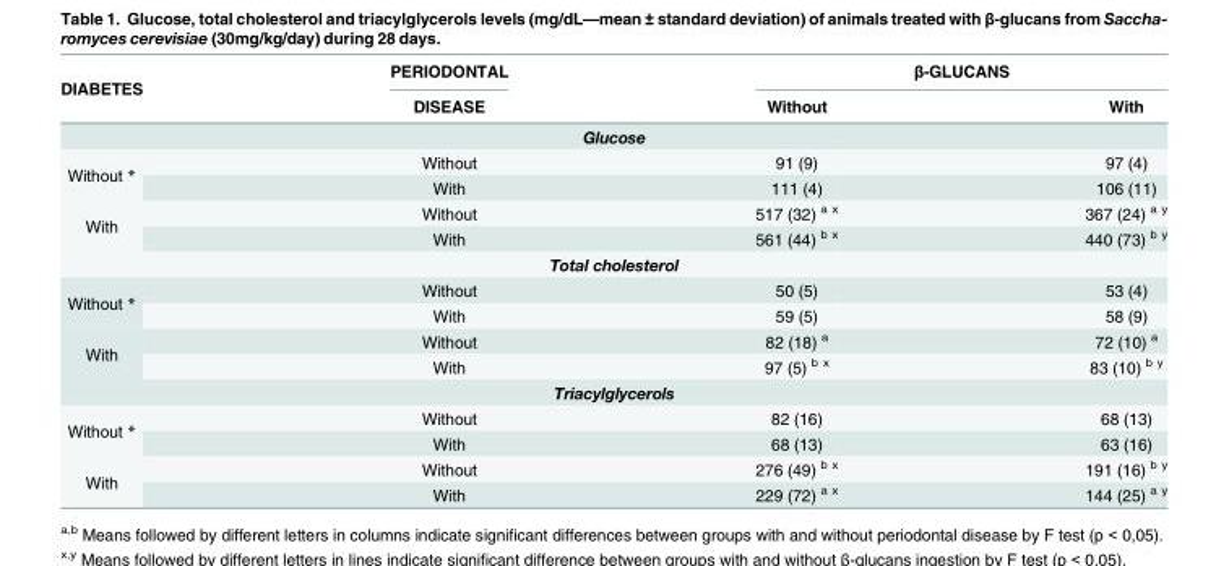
<table><thead><tr><td rowspan="2">DIABETES</td><td rowspan="2">PERIODONTAL DISEASE</td><td colspan="2">β-GLUCANS</td></tr><tr><td>Without</td><td>With</td></tr></thead><tbody><tr><td colspan="4">Glucose</td></tr><tr><td rowspan="2">Without *</td><td>Without</td><td>91 (9)</td><td>97 (4)</td></tr><tr><td>With</td><td>111 (4)</td><td>106 (11)</td></tr><tr><td rowspan="2">With</td><td>Without</td><td>517 (32) <sup>a x</sup></td><td>367 (24) <sup>a y</sup></td></tr><tr><td>With</td><td>561 (44) <sup>b x</sup></td><td>440 (73) <sup>b y</sup></td></tr><tr><td colspan="4">Total cholesterol</td></tr><tr><td rowspan="2">Without *</td><td>Without</td><td>50 (5)</td><td>53 (4)</td></tr><tr><td>With</td><td>59 (5)</td><td>58 (9)</td></tr><tr><td rowspan="2">With</td><td>Without</td><td>82 (18) <sup>a</sup></td><td>72 (10) <sup>a</sup></td></tr><tr><td>With</td><td>97 (5) <sup>b x</sup></td><td>83 (10) <sup>b y</sup></td></tr><tr><td colspan="4">Triacylglycerols</td></tr><tr><td rowspan="2">Without *</td><td>Without</td><td>82 (16)</td><td>68 (13)</td></tr><tr><td>With</td><td>68 (13)</td><td>63 (16)</td></tr><tr><td rowspan="2">With</td><td>Without</td><td>276 (49) <sup>b x</sup></td><td>191 (16) <sup>b y</sup></td></tr><tr><td>With</td><td>229 (72) <sup>a x</sup></td><td>144 (25) <sup>a y</sup></td></tr></tbody></table>